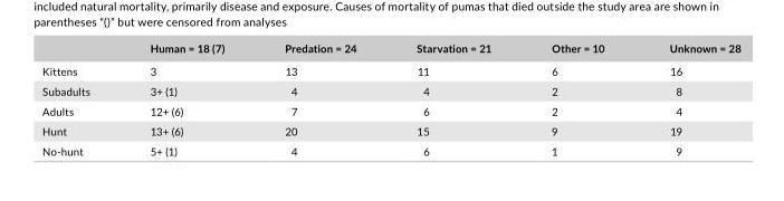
<table><thead><tr><td></td><td>Human = 18 (7)</td><td>Predation = 24</td><td>Starvation = 21</td><td>Other = 10</td><td>Unknown = 28</td></tr></thead><tbody><tr><td>Kittens</td><td>3</td><td>13</td><td>11</td><td>6</td><td>16</td></tr><tr><td>Subadults</td><td>3+ (1)</td><td>4</td><td>4</td><td>2</td><td>8</td></tr><tr><td>Adults</td><td>12+ (6)</td><td>7</td><td>6</td><td>2</td><td>4</td></tr><tr><td>Hunt</td><td>13+ (6)</td><td>20</td><td>15</td><td>9</td><td>19</td></tr><tr><td>No- hunt</td><td>5+ (1)</td><td>4</td><td>6</td><td>1</td><td>9</td></tr></tbody></table>